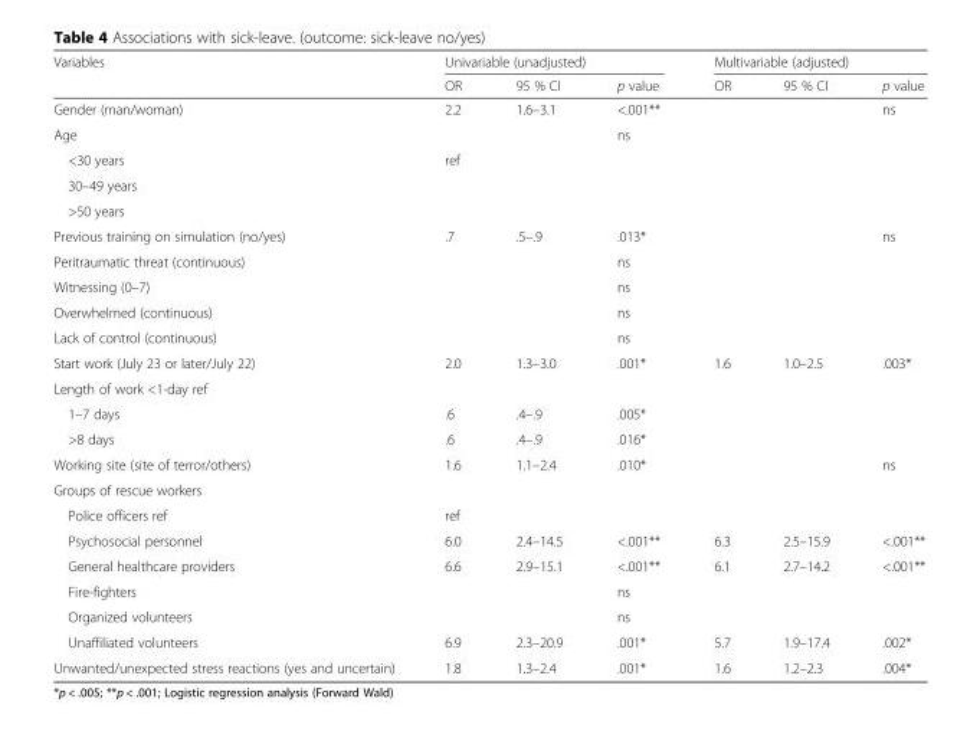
<table><thead><tr><td rowspan="2">Variables</td><td colspan="3">Univariable (unadjusted)</td><td colspan="3">Multivariable (adjusted)</td></tr><tr><td>OR</td><td>95 % CI</td><td>p value</td><td>OR</td><td>95 % CI</td><td>p value</td></tr></thead><tbody><tr><td>Gender (man/woman)</td><td>2.2</td><td>1.6–3.1</td><td>&lt;.001**</td><td></td><td></td><td>ns</td></tr><tr><td>Age</td><td></td><td></td><td>ns</td><td></td><td></td><td></td></tr><tr><td>&lt;30 years</td><td>ref</td><td></td><td></td><td></td><td></td><td></td></tr><tr><td colspan="7">30–49 years</td></tr><tr><td colspan="7">&gt;50 years</td></tr><tr><td>Previous training on simulation (no/yes)</td><td>.7</td><td>.5–.9</td><td>.013*</td><td></td><td></td><td>ns</td></tr><tr><td>Peritraumatic threat (continuous)</td><td></td><td></td><td>ns</td><td></td><td></td><td></td></tr><tr><td>Witnessing (0–7)</td><td></td><td></td><td>ns</td><td></td><td></td><td></td></tr><tr><td>Overwhelmed (continuous)</td><td></td><td></td><td>ns</td><td></td><td></td><td></td></tr><tr><td>Lack of control (continuous)</td><td></td><td></td><td>ns</td><td></td><td></td><td></td></tr><tr><td>Start work (July 23 or later/July 22)</td><td>2.0</td><td>1.3–3.0</td><td>.001*</td><td>1.6</td><td>1.0–2.5</td><td>.003*</td></tr><tr><td colspan="7">Length of work &lt;1-day ref</td></tr><tr><td>1–7 days</td><td>.6</td><td>.4–.9</td><td>.005*</td><td></td><td></td><td></td></tr><tr><td>&gt;8 days</td><td>.6</td><td>.4–.9</td><td>.016*</td><td></td><td></td><td></td></tr><tr><td>Working site (site of terror/others)</td><td>1.6</td><td>1.1–2.4</td><td>.010*</td><td></td><td></td><td>ns</td></tr><tr><td colspan="7">Groups of rescue workers</td></tr><tr><td>Police officers ref</td><td>ref</td><td></td><td></td><td></td><td></td><td></td></tr><tr><td>Psychosocial personnel</td><td>6.0</td><td>2.4–14.5</td><td>&lt;.001**</td><td>6.3</td><td>2.5–15.9</td><td>&lt;.001**</td></tr><tr><td>General healthcare providers</td><td>6.6</td><td>2.9–15.1</td><td>&lt;.001**</td><td>6.1</td><td>2.7–14.2</td><td>&lt;.001**</td></tr><tr><td>Fire-fighters</td><td></td><td></td><td>ns</td><td></td><td></td><td></td></tr><tr><td>Organized volunteers</td><td></td><td></td><td>ns</td><td></td><td></td><td></td></tr><tr><td>Unaffiliated volunteers</td><td>6.9</td><td>2.3–20.9</td><td>.001*</td><td>5.7</td><td>1.9–17.4</td><td>.002*</td></tr><tr><td>Unwanted/unexpected stress reactions (yes and uncertain)</td><td>1.8</td><td>1.3–2.4</td><td>.001*</td><td>1.6</td><td>1.2–2.3</td><td>.004*</td></tr></tbody></table>